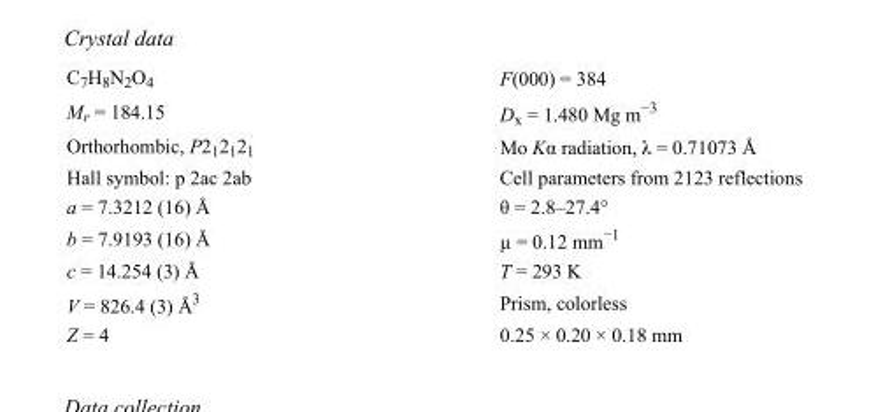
<table><tbody><tr><td>C<sub>7</sub>H<sub>8</sub>N<sub>2</sub>O<sub>4</sub></td><td>F(000) = 384</td></tr><tr><td>M<sub>r</sub> = 184.15</td><td>D<sub>x</sub> = 1.480 Mg m<sup>−3</sup></td></tr><tr><td>Orthorhombic, P2<sub>1</sub>2<sub>1</sub>2<sub>1</sub></td><td>Mo Kα radiation, λ = 0.71073 Å</td></tr><tr><td>Hall symbol: p 2ac 2ab</td><td>Cell parameters from 2123 reflections</td></tr><tr><td>a = 7.3212 (16) Å</td><td>θ = 2.8–27.4°</td></tr><tr><td>b = 7.9193 (16) Å</td><td>µ = 0.12 mm<sup>−1</sup></td></tr><tr><td>c = 14.254 (3) Å</td><td>T = 293 K</td></tr><tr><td>V = 826.4 (3) Å<sup>3</sup></td><td>Prism, colorless</td></tr><tr><td>Z = 4</td><td>0.25 × 0.20 × 0.18 mm</td></tr></tbody></table>